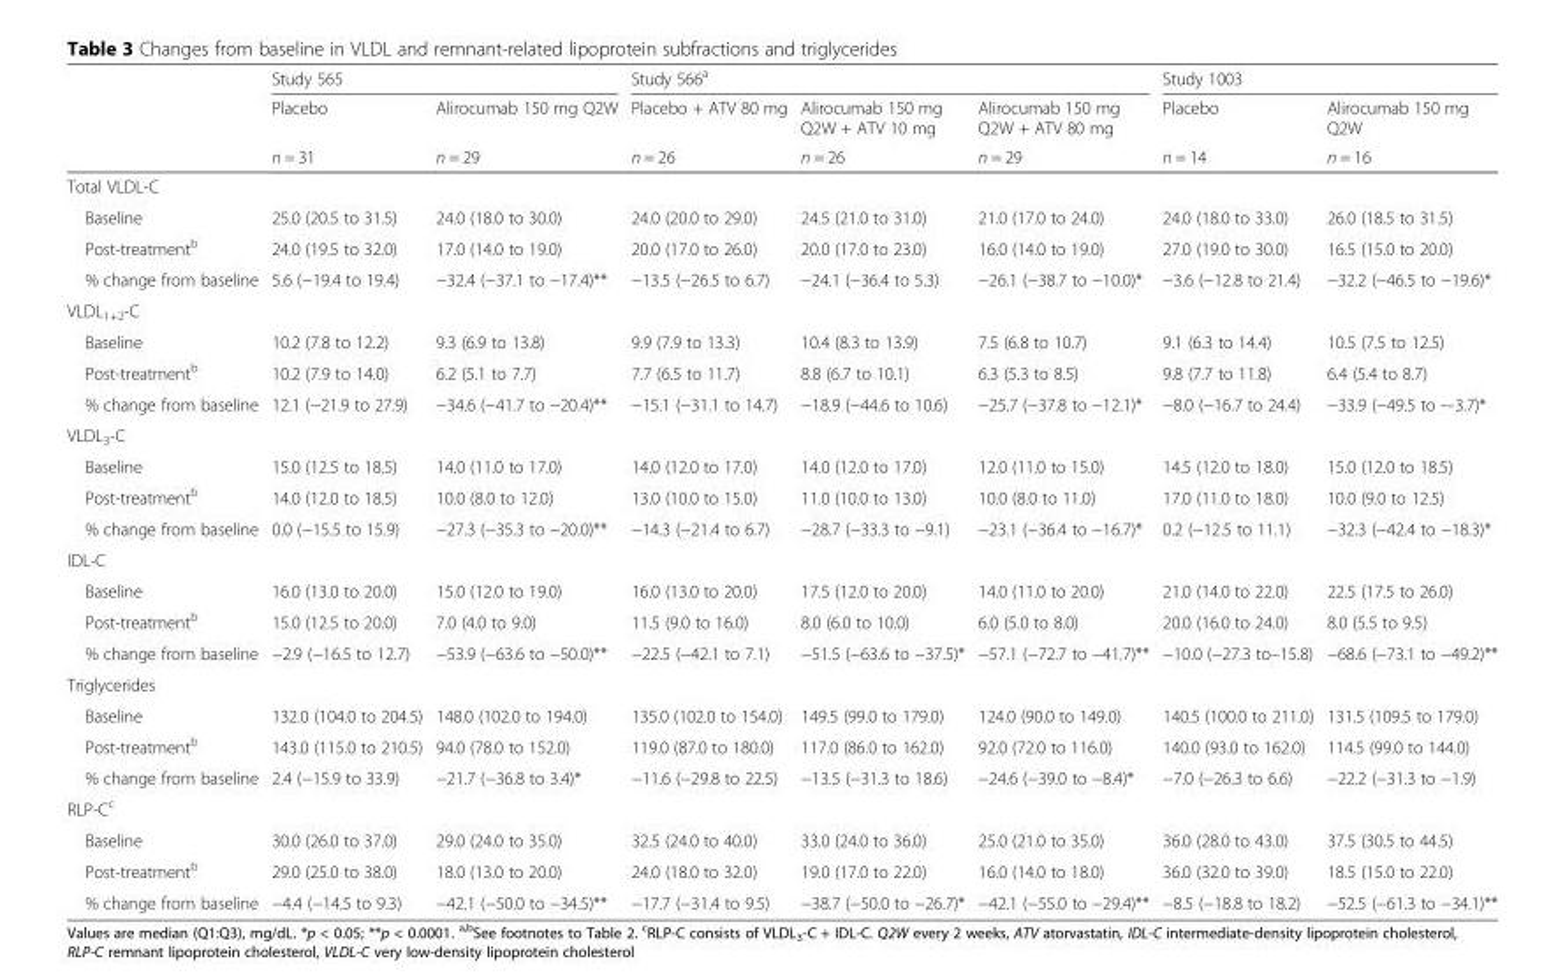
<table><thead><tr><td rowspan="3"></td><td colspan="2">Study 565</td><td colspan="3">Study 566<sup>a</sup></td><td colspan="2">Study 1003</td></tr><tr><td rowspan="2">Placebo n = 31</td><td rowspan="2">Alirocumab 150 mg Q2W n = 29</td><td rowspan="2">Placebo + ATV 80 mg n = 26</td><td rowspan="2">Alirocumab 150 mg Q2W + ATV 10 mg n = 26</td><td rowspan="2">Alirocumab 150 mg Q2W + ATV 80 mg n = 29</td><td rowspan="2">Placebo n = 14</td><td rowspan="2">Alirocumab 150 mg Q2W n = 16</td></tr><tr></tr></thead><tbody><tr><td colspan="8">Total VLDL-C</td></tr><tr><td>Baseline</td><td>25.0 (20.5 to 31.5)</td><td>24.0 (18.0 to 30.0)</td><td>24.0 (20.0 to 29.0)</td><td>24.5 (21.0 to 31.0)</td><td>21.0 (17.0 to 24.0)</td><td>24.0 (18.0 to 33.0)</td><td>26.0 (18.5 to 31.5)</td></tr><tr><td>Post-treatment<sup>b</sup></td><td>24.0 (19.5 to 32.0)</td><td>17.0 (14.0 to 19.0)</td><td>20.0 (17.0 to 26.0)</td><td>20.0 (17.0 to 23.0)</td><td>16.0 (14.0 to 19.0)</td><td>27.0 (19.0 to 30.0)</td><td>16.5 (15.0 to 20.0)</td></tr><tr><td>% change from baseline</td><td>5.6 (−19.4 to 19.4)</td><td>−32.4 (−37.1 to −17.4)**</td><td>−13.5 (−26.5 to 6.7)</td><td>−24.1 (−36.4 to 5.3)</td><td>−26.1 (−38.7 to −10.0)*</td><td>−3.6 (−12.8 to 21.4)</td><td>−32.2 (−46.5 to −19.6)*</td></tr><tr><td colspan="8">VLDL<sub>1+2</sub>-C</td></tr><tr><td>Baseline</td><td>10.2 (7.8 to 12.2)</td><td>9.3 (6.9 to 13.8)</td><td>9.9 (7.9 to 13.3)</td><td>10.4 (8.3 to 13.9)</td><td>7.5 (6.8 to 10.7)</td><td>9.1 (6.3 to 14.4)</td><td>10.5 (7.5 to 12.5)</td></tr><tr><td>Post-treatment<sup>b</sup></td><td>10.2 (7.9 to 14.0)</td><td>6.2 (5.1 to 7.7)</td><td>7.7 (6.5 to 11.7)</td><td>8.8 (6.7 to 10.1)</td><td>6.3 (5.3 to 8.5)</td><td>9.8 (7.7 to 11.8)</td><td>6.4 (5.4 to 8.7)</td></tr><tr><td>% change from baseline</td><td>12.1 (−21.9 to 27.9)</td><td>−34.6 (−41.7 to −20.4)**</td><td>−15.1 (−31.1 to 14.7)</td><td>−18.9 (−44.6 to 10.6)</td><td>−25.7 (−37.8 to −12.1)*</td><td>−8.0 (−16.7 to 24.4)</td><td>−33.9 (−49.5 to -–3.7)*</td></tr><tr><td colspan="8">VLDL<sub>3</sub>-C</td></tr><tr><td>Baseline</td><td>15.0 (12.5 to 18.5)</td><td>14.0 (11.0 to 17.0)</td><td>14.0 (12.0 to 17.0)</td><td>14.0 (12.0 to 17.0)</td><td>12.0 (11.0 to 15.0)</td><td>14.5 (12.0 to 18.0)</td><td>15.0 (12.0 to 18.5)</td></tr><tr><td>Post-treatment<sup>b</sup></td><td>14.0 (12.0 to 18.5)</td><td>10.0 (8.0 to 12.0)</td><td>13.0 (10.0 to 15.0)</td><td>11.0 (10.0 to 13.0)</td><td>10.0 (8.0 to 11.0)</td><td>17.0 (11.0 to 18.0)</td><td>10.0 (9.0 to 12.5)</td></tr><tr><td>% change from baseline</td><td>0.0 (−15.5 to 15.9)</td><td>−27.3 (−35.3 to −20.0)**</td><td>−14.3 (−21.4 to 6.7)</td><td>−28.7 (−33.3 to −9.1)</td><td>−23.1 (−36.4 to −16.7)*</td><td>0.2 (−12.5 to 11.1)</td><td>−32.3 (−42.4 to −18.3)*</td></tr><tr><td colspan="8">IDL-C</td></tr><tr><td>Baseline</td><td>16.0 (13.0 to 20.0)</td><td>15.0 (12.0 to 19.0)</td><td>16.0 (13.0 to 20.0)</td><td>17.5 (12.0 to 20.0)</td><td>14.0 (11.0 to 20.0)</td><td>21.0 (14.0 to 22.0)</td><td>22.5 (17.5 to 26.0)</td></tr><tr><td>Post-treatment<sup>b</sup></td><td>15.0 (12.5 to 20.0)</td><td>7.0 (4.0 to 9.0)</td><td>11.5 (9.0 to 16.0)</td><td>8.0 (6.0 to 10.0)</td><td>6.0 (5.0 to 8.0)</td><td>20.0 (16.0 to 24.0)</td><td>8.0 (5.5 to 9.5)</td></tr><tr><td>% change from baseline</td><td>−2.9 (−16.5 to 12.7)</td><td>−53.9 (−63.6 to −50.0)**</td><td>−22.5 (−42.1 to 7.1)</td><td>−51.5 (−63.6 to −37.5)*</td><td>−57.1 (−72.7 to −41.7)**</td><td>−10.0 (−27.3 to–15.8)</td><td>−68.6 (−73.1 to −49.2)**</td></tr><tr><td colspan="8">Triglycerides</td></tr><tr><td>Baseline</td><td>132.0 (104.0 to 204.5)</td><td>148.0 (102.0 to 194.0)</td><td>135.0 (102.0 to 154.0)</td><td>149.5 (99.0 to 179.0)</td><td>124.0 (90.0 to 149.0)</td><td>140.5 (100.0 to 211.0)</td><td>131.5 (109.5 to 179.0)</td></tr><tr><td>Post-treatment<sup>b</sup></td><td>143.0 (115.0 to 210.5)</td><td>94.0 (78.0 to 152.0)</td><td>119.0 (87.0 to 180.0)</td><td>117.0 (86.0 to 162.0)</td><td>92.0 (72.0 to 116.0)</td><td>140.0 (93.0 to 162.0)</td><td>114.5 (99.0 to 144.0)</td></tr><tr><td>% change from baseline</td><td>2.4 (−15.9 to 33.9)</td><td>−21.7 (−36.8 to 3.4)*</td><td>−11.6 (−29.8 to 22.5)</td><td>−13.5 (−31.3 to 18.6)</td><td>−24.6 (−39.0 to −8.4)*</td><td>−7.0 (−26.3 to 6.6)</td><td>−22.2 (−31.3 to −1.9)</td></tr><tr><td colspan="8">RLP-C<sup>c</sup></td></tr><tr><td>Baseline</td><td>30.0 (26.0 to 37.0)</td><td>29.0 (24.0 to 35.0)</td><td>32.5 (24.0 to 40.0)</td><td>33.0 (24.0 to 36.0)</td><td>25.0 (21.0 to 35.0)</td><td>36.0 (28.0 to 43.0)</td><td>37.5 (30.5 to 44.5)</td></tr><tr><td>Post-treatment<sup>b</sup></td><td>29.0 (25.0 to 38.0)</td><td>18.0 (13.0 to 20.0)</td><td>24.0 (18.0 to 32.0)</td><td>19.0 (17.0 to 22.0)</td><td>16.0 (14.0 to 18.0)</td><td>36.0 (32.0 to 39.0)</td><td>18.5 (15.0 to 22.0)</td></tr><tr><td>% change from baseline</td><td>−4.4 (−14.5 to 9.3)</td><td>−42.1 (−50.0 to −34.5)**</td><td>−17.7 (−31.4 to 9.5)</td><td>−38.7 (−50.0 to −26.7)*</td><td>−42.1 (−55.0 to −29.4)**</td><td>−8.5 (−18.8 to 18.2)</td><td>−52.5 (−61.3 to −34.1)**</td></tr></tbody></table>